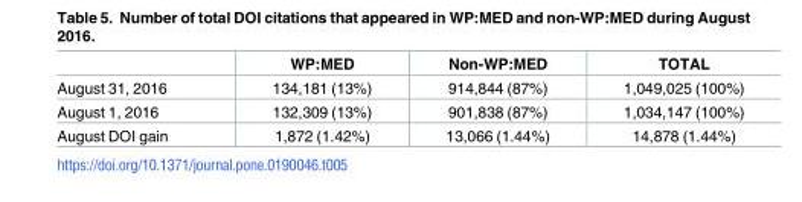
<table><thead><tr><td></td><td>WP:MED</td><td>Non-WP:MED</td><td>TOTAL</td></tr></thead><tbody><tr><td>August 31, 2016</td><td>134,181 (13%)</td><td>914,844 (87%)</td><td>1,049,025 (100%)</td></tr><tr><td>August 1, 2016</td><td>132,309 (13%)</td><td>901,838 (87%)</td><td>1,034,147 (100%)</td></tr><tr><td>August DOI gain</td><td>1,872 (1.42%)</td><td>13,066 (1.44%)</td><td>14,878 (1.44%)</td></tr></tbody></table>